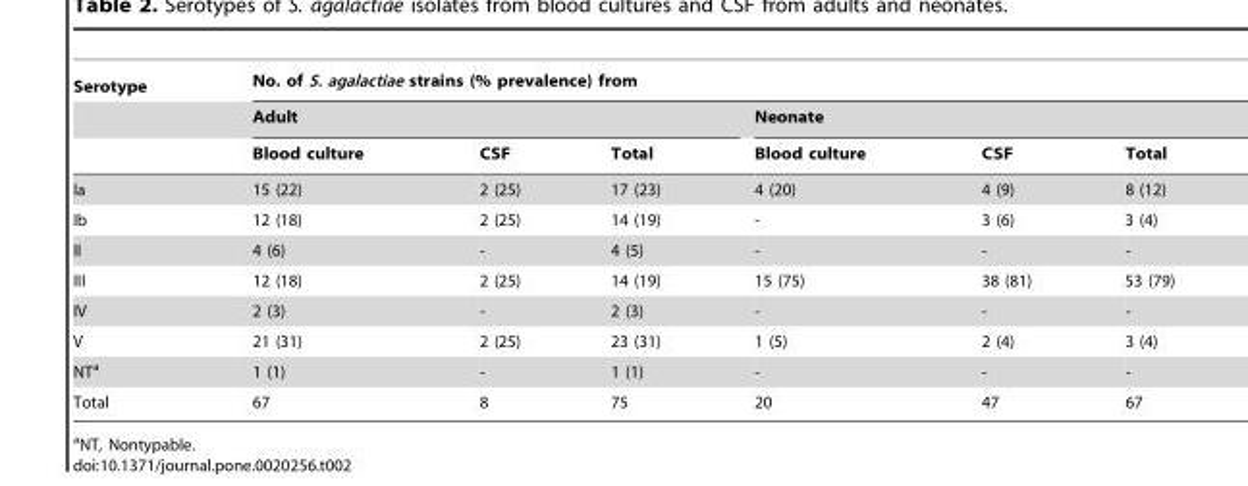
<table><thead><tr><td rowspan="3">Serotype</td><td colspan="6">No. of S. agalactiae strains (% prevalence) from</td></tr><tr><td colspan="3">Adult</td><td colspan="3">Neonate</td></tr><tr><td>Blood culture</td><td>CSF</td><td>Total</td><td>Blood culture</td><td>CSF</td><td>Total</td></tr></thead><tbody><tr><td>Ia</td><td>15 (22)</td><td>2 (25)</td><td>17 (23)</td><td>4 (20)</td><td>4 (9)</td><td>8 (12)</td></tr><tr><td>Ib</td><td>12 (18)</td><td>2 (25)</td><td>14 (19)</td><td>-</td><td>3 (6)</td><td>3 (4)</td></tr><tr><td>II</td><td>4 (6)</td><td>-</td><td>4 (5)</td><td>-</td><td>-</td><td>-</td></tr><tr><td>III</td><td>12 (18)</td><td>2 (25)</td><td>14 (19)</td><td>15 (75)</td><td>38 (81)</td><td>53 (79)</td></tr><tr><td>IV</td><td>2 (3)</td><td>-</td><td>2 (3)</td><td>-</td><td>-</td><td>-</td></tr><tr><td>V</td><td>21 (31)</td><td>2 (25)</td><td>23 (31)</td><td>1 (5)</td><td>2 (4)</td><td>3 (4)</td></tr><tr><td>NT<sup>a</sup></td><td>1 (1)</td><td>-</td><td>1 (1)</td><td>-</td><td>-</td><td>-</td></tr><tr><td>Total</td><td>67</td><td>8</td><td>75</td><td>20</td><td>47</td><td>67</td></tr></tbody></table>